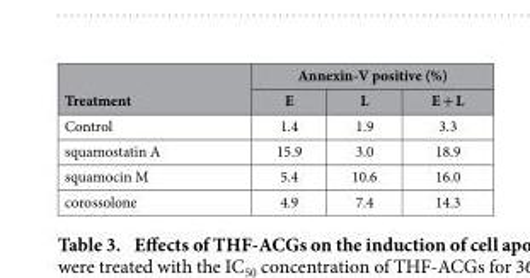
<table><thead><tr><td rowspan="2">Treatment</td><td colspan="3">Annexin-V positive (%)</td></tr><tr><td>E</td><td>L</td><td>E + L</td></tr></thead><tbody><tr><td>Control</td><td>1.4</td><td>1.9</td><td>3.3</td></tr><tr><td>squamostatin A</td><td>15.9</td><td>3.0</td><td>18.9</td></tr><tr><td>squamocin M</td><td>5.4</td><td>10.6</td><td>16.0</td></tr><tr><td>corossolone</td><td>4.9</td><td>7.4</td><td>14.3</td></tr></tbody></table>